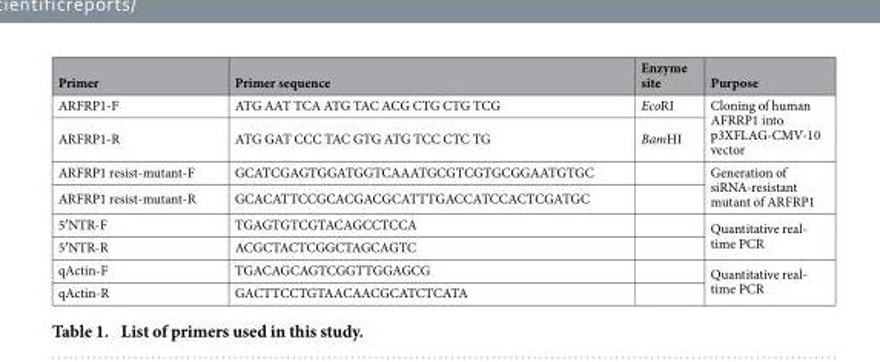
<table><thead><tr><td>Primer</td><td>Primer sequence</td><td>Enzyme site</td><td>Purpose</td></tr></thead><tbody><tr><td>ARFRP1-F</td><td>ATG AAT TCA ATG TAC ACG CTG CTG TCG</td><td>EcoRI</td><td rowspan="2">Cloning of human AFRRP1 into p3XFLAG-CMV-10 vector</td></tr><tr><td>ARFRP1-R</td><td>ATG GAT CCC TAC GTG ATG TCC CTC TG</td><td>BamHI</td></tr><tr><td>ARFRP1 resist-mutant-F</td><td>GCATCGAGTGGATGGTCAAATGCGTCGTGCGGAATGTGC</td><td></td><td rowspan="2">Generation of siRNA-resistant mutant of ARFRP1</td></tr><tr><td>ARFRP1 resist-mutant-R</td><td>GCACATTCCGCACGACGCATTTGACCATCCACTCGATGC</td><td></td></tr><tr><td>5′ NTR-F</td><td>TGAGTGTCGTACAGCCTCCA</td><td></td><td rowspan="2">Quantitative real- time PCR</td></tr><tr><td>5′ NTR-R</td><td>ACGCTACTCGGCTAGCAGTC</td><td></td></tr><tr><td>qActin-F</td><td>TGACAGCAGTCGGTTGGAGCG</td><td></td><td rowspan="2">Quantitative real- time PCR</td></tr><tr><td>qActin-R</td><td>GACTTCCTGTAACAACGCATCTCATA</td><td></td></tr></tbody></table>